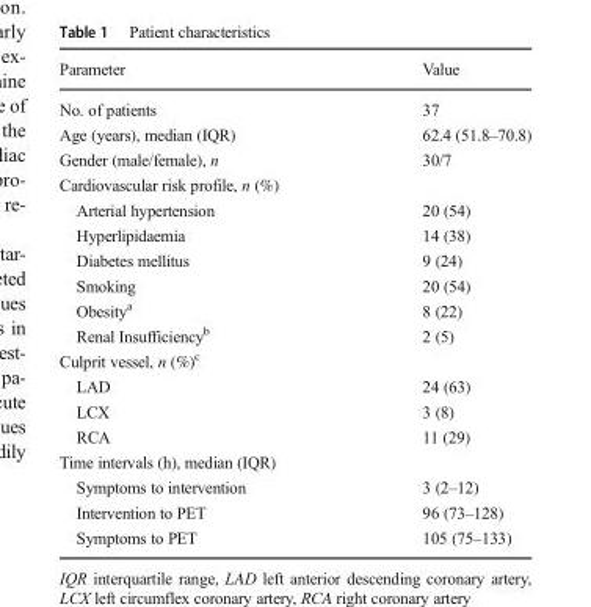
<table><thead><tr><td>Parameter</td><td>Value</td></tr></thead><tbody><tr><td>No. of patients</td><td>37</td></tr><tr><td>Age (years), median (IQR)</td><td>62.4 (51.8–70.8)</td></tr><tr><td>Gender (male/female), n</td><td>30/7</td></tr><tr><td colspan="2">Cardiovascular risk profile, n (%)</td></tr><tr><td>Arterial hypertension</td><td>20 (54)</td></tr><tr><td>Hyperlipidaemia</td><td>14 (38)</td></tr><tr><td>Diabetes mellitus</td><td>9 (24)</td></tr><tr><td>Smoking</td><td>20 (54)</td></tr><tr><td>Obesity<sup>a</sup></td><td>8 (22)</td></tr><tr><td>Renal Insufficiency<sup>b</sup></td><td>2 (5)</td></tr><tr><td colspan="2">Culprit vessel, n (%)<sup>c</sup></td></tr><tr><td>LAD</td><td>24 (63)</td></tr><tr><td>LCX</td><td>3 (8)</td></tr><tr><td>RCA</td><td>11 (29)</td></tr><tr><td colspan="2">Time intervals (h), median (IQR)</td></tr><tr><td>Symptoms to intervention</td><td>3 (2–12)</td></tr><tr><td>Intervention to PET</td><td>96 (73–128)</td></tr><tr><td>Symptoms to PET</td><td>105 (75–133)</td></tr></tbody></table>